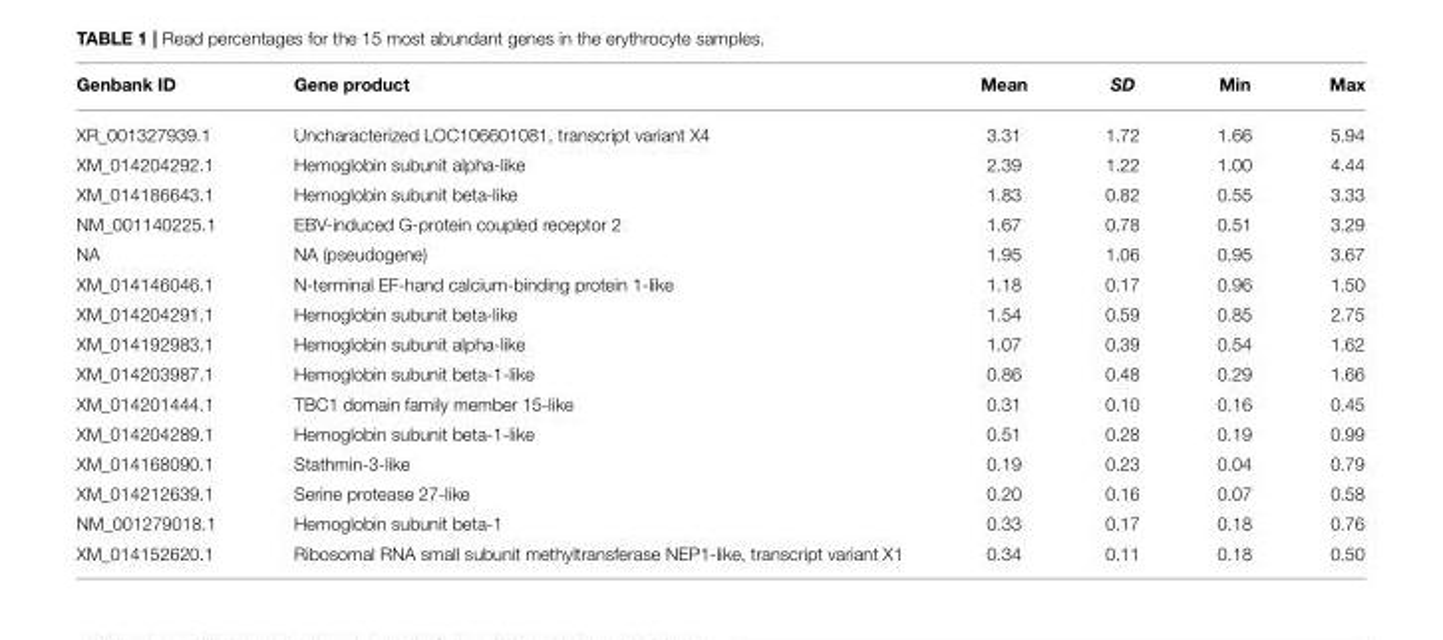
<table><thead><tr><td>Genbank ID</td><td>Gene product</td><td>Mean</td><td>SD</td><td>Min</td><td>Max</td></tr></thead><tbody><tr><td>XR_001327939.1</td><td>Uncharacterized LOC106601081, transcript variant X4</td><td>3.31</td><td>1.72</td><td>1.66</td><td>5.94</td></tr><tr><td>XM_014204292.1</td><td>Hemoglobin subunit alpha-like</td><td>2.39</td><td>1.22</td><td>1.00</td><td>4.44</td></tr><tr><td>XM_014186643.1</td><td>Hemoglobin subunit beta-like</td><td>1.83</td><td>0.82</td><td>0.55</td><td>3.33</td></tr><tr><td>NM_001140225.1</td><td>EBV-induced G-protein coupled receptor 2</td><td>1.67</td><td>0.78</td><td>0.51</td><td>3.29</td></tr><tr><td>NA</td><td>NA (pseudogene)</td><td>1.95</td><td>1.06</td><td>0.95</td><td>3.67</td></tr><tr><td>XM_014146046.1</td><td>N-terminal EF-hand calcium-binding protein 1-like</td><td>1.18</td><td>0.17</td><td>0.96</td><td>1.50</td></tr><tr><td>XM_014204291.1</td><td>Hemoglobin subunit beta-like</td><td>1.54</td><td>0.59</td><td>0.85</td><td>2.75</td></tr><tr><td>XM_014192983.1</td><td>Hemoglobin subunit alpha-like</td><td>1.07</td><td>0.39</td><td>0.54</td><td>1.62</td></tr><tr><td>XM_014203987.1</td><td>Hemoglobin subunit beta-1-like</td><td>0.86</td><td>0.48</td><td>0.29</td><td>1.66</td></tr><tr><td>XM_014201444.1</td><td>TBC1 domain family member 15-like</td><td>0.31</td><td>0.10</td><td>0.16</td><td>0.45</td></tr><tr><td>XM_014204289.1</td><td>Hemoglobin subunit beta-1-like</td><td>0.51</td><td>0.28</td><td>0.19</td><td>0.99</td></tr><tr><td>XM_014168090.1</td><td>Stathmin-3-like</td><td>0.19</td><td>0.23</td><td>0.04</td><td>0.79</td></tr><tr><td>XM_014212639.1</td><td>Serine protease 27-like</td><td>0.20</td><td>0.16</td><td>0.07</td><td>0.58</td></tr><tr><td>NM_001279018.1</td><td>Hemoglobin subunit beta-1</td><td>0.33</td><td>0.17</td><td>0.18</td><td>0.76</td></tr><tr><td>XM_014152620.1</td><td>Ribosomal RNA small subunit methyltransferase NEP1-like, transcript variant X1</td><td>0.34</td><td>0.11</td><td>0.18</td><td>0.50</td></tr></tbody></table>